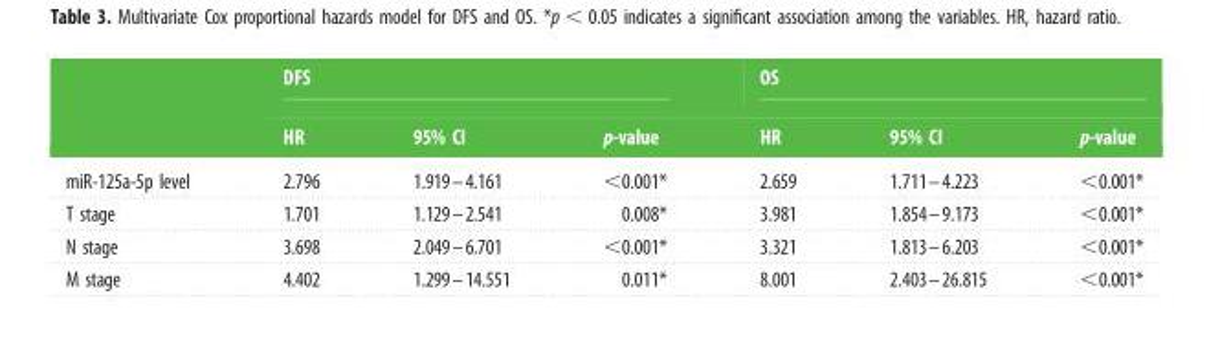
<table><thead><tr><td rowspan="2"></td><td colspan="3">DFS</td><td colspan="3">OS</td></tr><tr><td>HR</td><td>95% CI</td><td>p-value</td><td>HR</td><td>95% CI</td><td>p-value</td></tr></thead><tbody><tr><td>miR-125a-5p level</td><td>2.796</td><td>1.919–4.161</td><td>&lt;0.001*</td><td>2.659</td><td>1.711–4.223</td><td>&lt;0.001*</td></tr><tr><td>T stage</td><td>1.701</td><td>1.129–2.541</td><td>0.008*</td><td>3.981</td><td>1.854–9.173</td><td>&lt;0.001*</td></tr><tr><td>N stage</td><td>3.698</td><td>2.049–6.701</td><td>&lt;0.001*</td><td>3.321</td><td>1.813–6.203</td><td>&lt;0.001*</td></tr><tr><td>M stage</td><td>4.402</td><td>1.299–14.551</td><td>0.011*</td><td>8.001</td><td>2.403–26.815</td><td>&lt;0.001*</td></tr></tbody></table>